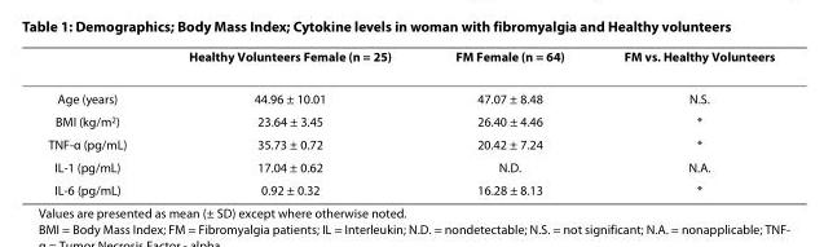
<table><thead><tr><td></td><td>Healthy Volunteers Female (n = 25)</td><td>FM Female (n = 64)</td><td>FM vs. Healthy Volunteers</td></tr></thead><tbody><tr><td>Age (years)</td><td>44.96 ± 10.01</td><td>47.07 ± 8.48</td><td>N.S.</td></tr><tr><td>BMI (kg/m<sup>2</sup>)</td><td>23.64 ± 3.45</td><td>26.40 ± 4.46</td><td>*</td></tr><tr><td>TNF-α (pg/mL)</td><td>35.73 ± 0.72</td><td>20.42 ± 7.24</td><td>*</td></tr><tr><td>IL-1 (pg/mL)</td><td>17.04 ± 0.62</td><td>N.D.</td><td>N.A.</td></tr><tr><td>IL-6 (pg/mL)</td><td>0.92 ± 0.32</td><td>16.28 ± 8.13</td><td>*</td></tr></tbody></table>